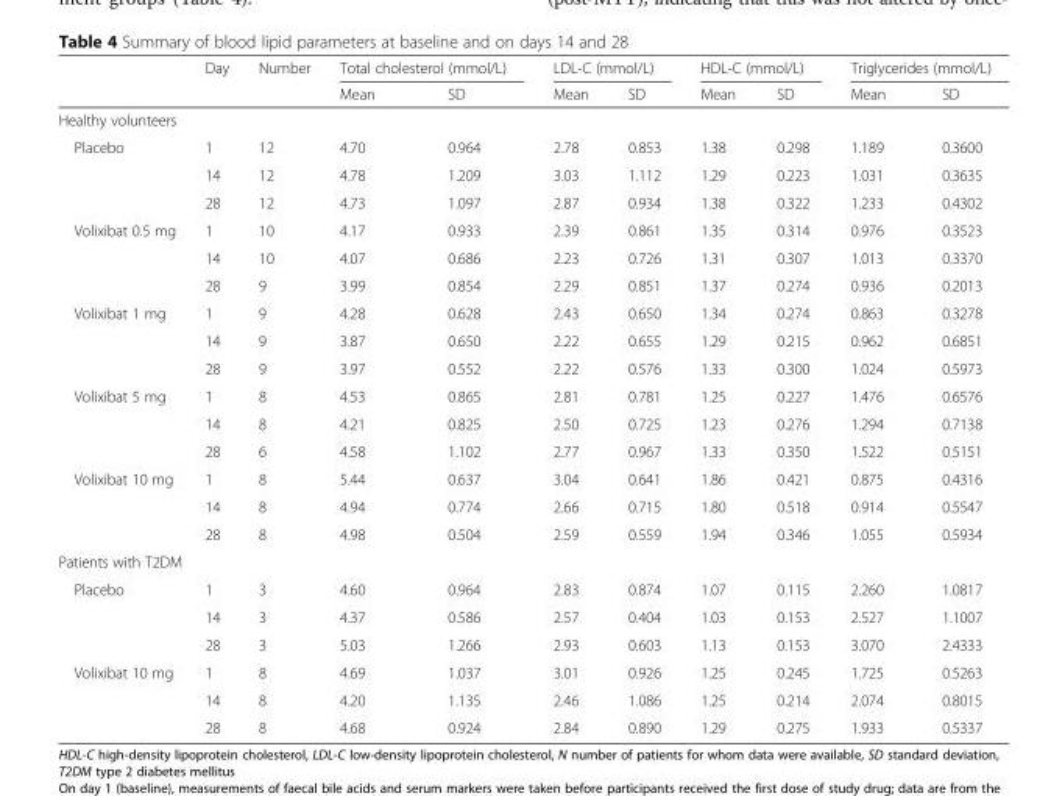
<table><thead><tr><td rowspan="2"></td><td rowspan="2">Day</td><td rowspan="2">Number</td><td colspan="2">Total cholesterol (mmol/L)</td><td colspan="2">LDL-C (mmol/L)</td><td colspan="2">HDL-C (mmol/L)</td><td colspan="2">Triglycerides (mmol/L)</td></tr><tr><td>Mean</td><td>SD</td><td>Mean</td><td>SD</td><td>Mean</td><td>SD</td><td>Mean</td><td>SD</td></tr></thead><tbody><tr><td colspan="11">Healthy volunteers</td></tr><tr><td rowspan="3">Placebo</td><td>1</td><td>12</td><td>4.70</td><td>0.964</td><td>2.78</td><td>0.853</td><td>1.38</td><td>0.298</td><td>1.189</td><td>0.3600</td></tr><tr><td>14</td><td>12</td><td>4.78</td><td>1.209</td><td>3.03</td><td>1.112</td><td>1.29</td><td>0.223</td><td>1.031</td><td>0.3635</td></tr><tr><td>28</td><td>12</td><td>4.73</td><td>1.097</td><td>2.87</td><td>0.934</td><td>1.38</td><td>0.322</td><td>1.233</td><td>0.4302</td></tr><tr><td rowspan="3">Volixibat 0.5 mg</td><td>1</td><td>10</td><td>4.17</td><td>0.933</td><td>2.39</td><td>0.861</td><td>1.35</td><td>0.314</td><td>0.976</td><td>0.3523</td></tr><tr><td>14</td><td>10</td><td>4.07</td><td>0.686</td><td>2.23</td><td>0.726</td><td>1.31</td><td>0.307</td><td>1.013</td><td>0.3370</td></tr><tr><td>28</td><td>9</td><td>3.99</td><td>0.854</td><td>2.29</td><td>0.851</td><td>1.37</td><td>0.274</td><td>0.936</td><td>0.2013</td></tr><tr><td rowspan="3">Volixibat 1 mg</td><td>1</td><td>9</td><td>4.28</td><td>0.628</td><td>2.43</td><td>0.650</td><td>1.34</td><td>0.274</td><td>0.863</td><td>0.3278</td></tr><tr><td>14</td><td>9</td><td>3.87</td><td>0.650</td><td>2.22</td><td>0.655</td><td>1.29</td><td>0.215</td><td>0.962</td><td>0.6851</td></tr><tr><td>28</td><td>9</td><td>3.97</td><td>0.552</td><td>2.22</td><td>0.576</td><td>1.33</td><td>0.300</td><td>1.024</td><td>0.5973</td></tr><tr><td rowspan="3">Volixibat 5 mg</td><td>1</td><td>8</td><td>4.53</td><td>0.865</td><td>2.81</td><td>0.781</td><td>1.25</td><td>0.227</td><td>1.476</td><td>0.6576</td></tr><tr><td>14</td><td>8</td><td>4.21</td><td>0.825</td><td>2.50</td><td>0.725</td><td>1.23</td><td>0.276</td><td>1.294</td><td>0.7138</td></tr><tr><td>28</td><td>6</td><td>4.58</td><td>1.102</td><td>2.77</td><td>0.967</td><td>1.33</td><td>0.350</td><td>1.522</td><td>0.5151</td></tr><tr><td rowspan="3">Volixibat 10 mg</td><td>1</td><td>8</td><td>5.44</td><td>0.637</td><td>3.04</td><td>0.641</td><td>1.86</td><td>0.421</td><td>0.875</td><td>0.4316</td></tr><tr><td>14</td><td>8</td><td>4.94</td><td>0.774</td><td>2.66</td><td>0.715</td><td>1.80</td><td>0.518</td><td>0.914</td><td>0.5547</td></tr><tr><td>28</td><td>8</td><td>4.98</td><td>0.504</td><td>2.59</td><td>0.559</td><td>1.94</td><td>0.346</td><td>1.055</td><td>0.5934</td></tr><tr><td colspan="11">Patients with T2DM</td></tr><tr><td rowspan="3">Placebo</td><td>1</td><td>3</td><td>4.60</td><td>0.964</td><td>2.83</td><td>0.874</td><td>1.07</td><td>0.115</td><td>2.260</td><td>1.0817</td></tr><tr><td>14</td><td>3</td><td>4.37</td><td>0.586</td><td>2.57</td><td>0.404</td><td>1.03</td><td>0.153</td><td>2.527</td><td>1.1007</td></tr><tr><td>28</td><td>3</td><td>5.03</td><td>1.266</td><td>2.93</td><td>0.603</td><td>1.13</td><td>0.153</td><td>3.070</td><td>2.4333</td></tr><tr><td rowspan="3">Volixibat 10 mg</td><td>1</td><td>8</td><td>4.69</td><td>1.037</td><td>3.01</td><td>0.926</td><td>1.25</td><td>0.245</td><td>1.725</td><td>0.5263</td></tr><tr><td>14</td><td>8</td><td>4.20</td><td>1.135</td><td>2.46</td><td>1.086</td><td>1.25</td><td>0.214</td><td>2.074</td><td>0.8015</td></tr><tr><td>28</td><td>8</td><td>4.68</td><td>0.924</td><td>2.84</td><td>0.890</td><td>1.29</td><td>0.275</td><td>1.933</td><td>0.5337</td></tr></tbody></table>